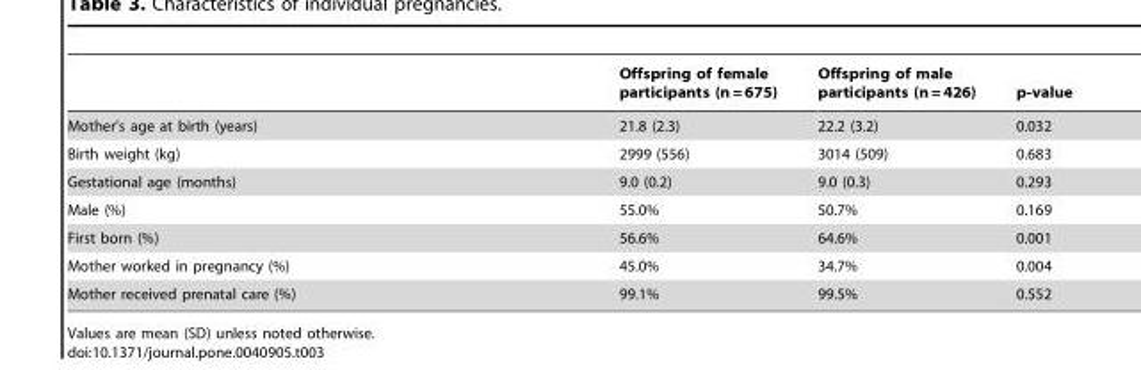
<table><thead><tr><td></td><td>Offspring of female participants (n = 675)</td><td>Offspring of male participants (n = 426)</td><td>p-value</td></tr></thead><tbody><tr><td>Mother’s age at birth (years)</td><td>21.8 (2.3)</td><td>22.2 (3.2)</td><td>0.032</td></tr><tr><td>Birth weight (kg)</td><td>2999 (556)</td><td>3014 (509)</td><td>0.683</td></tr><tr><td>Gestational age (months)</td><td>9.0 (0.2)</td><td>9.0 (0.3)</td><td>0.293</td></tr><tr><td>Male (%)</td><td>55.0%</td><td>50.7%</td><td>0.169</td></tr><tr><td>First born (%)</td><td>56.6%</td><td>64.6%</td><td>0.001</td></tr><tr><td>Mother worked in pregnancy (%)</td><td>45.0%</td><td>34.7%</td><td>0.004</td></tr><tr><td>Mother received prenatal care (%)</td><td>99.1%</td><td>99.5%</td><td>0.552</td></tr></tbody></table>